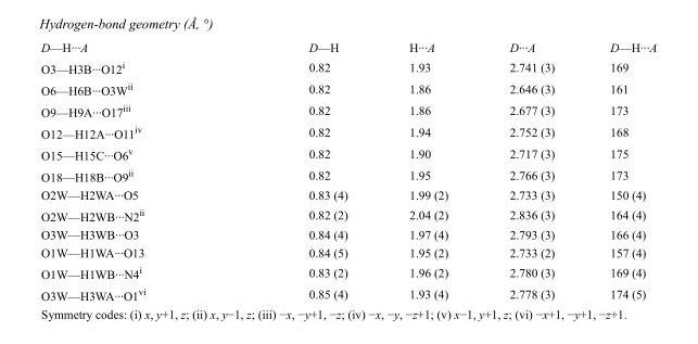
<table><tbody><tr><td>D—H···A</td><td>D—H</td><td>H···A</td><td>D···A</td><td>D—H···A</td></tr><tr><td>O3—H3B···O12<sup>i</sup></td><td>0.82</td><td>1.93</td><td>2.741 (3)</td><td>169</td></tr><tr><td>O6—H6B···O3W<sup>ii</sup></td><td>0.82</td><td>1.86</td><td>2.646 (3)</td><td>161</td></tr><tr><td>O9—H9A···O17<sup>iii</sup></td><td>0.82</td><td>1.86</td><td>2.677 (3)</td><td>173</td></tr><tr><td>O12—H12A···O11<sup>iv</sup></td><td>0.82</td><td>1.94</td><td>2.752 (3)</td><td>168</td></tr><tr><td>O15—H15C···O6<sup>v</sup></td><td>0.82</td><td>1.90</td><td>2.717 (3)</td><td>175</td></tr><tr><td>O18—H18B···O9<sup>ii</sup></td><td>0.82</td><td>1.95</td><td>2.766 (3)</td><td>173</td></tr><tr><td>O2W—H2WA···O5</td><td>0.83 (4)</td><td>1.99 (2)</td><td>2.733 (3)</td><td>150 (4)</td></tr><tr><td>O2W—H2WB···N2<sup>ii</sup></td><td>0.82 (2)</td><td>2.04 (2)</td><td>2.836 (3)</td><td>164 (4)</td></tr><tr><td>O3W—H3WB···O3</td><td>0.84 (4)</td><td>1.97 (4)</td><td>2.793 (3)</td><td>166 (4)</td></tr><tr><td>O1W—H1WA···O13</td><td>0.84 (5)</td><td>1.95 (2)</td><td>2.733 (2)</td><td>157 (4)</td></tr><tr><td>O1W—H1WB···N4<sup>i</sup></td><td>0.83 (2)</td><td>1.96 (2)</td><td>2.780 (3)</td><td>169 (4)</td></tr><tr><td>O3W—H3WA···O1<sup>vi</sup></td><td>0.85 (4)</td><td>1.93 (4)</td><td>2.778 (3)</td><td>174 (5)</td></tr></tbody></table>